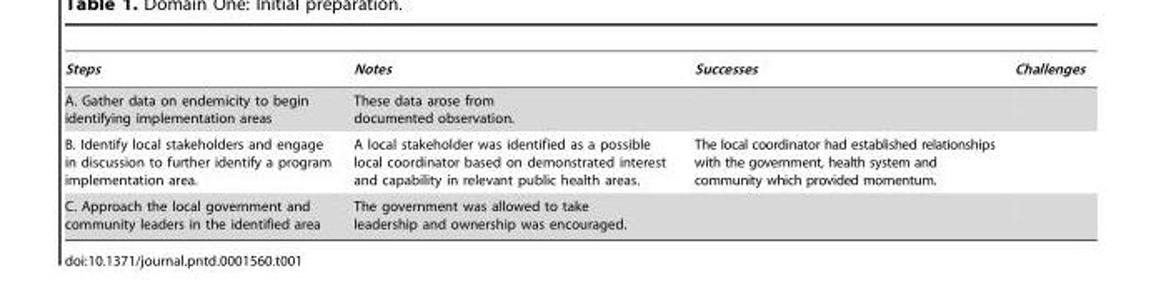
<table><thead><tr><td>Steps</td><td>Notes</td><td>Successes</td><td>Challenges</td></tr></thead><tbody><tr><td>A. Gather data on endemicity to begin identifying implementation areas</td><td>These data arose from documented observation.</td><td></td><td></td></tr><tr><td>B. Identify local stakeholders and engage in discussion to further identify a program implementation area.</td><td>A local stakeholder was identified as a possible local coordinator based on demonstrated interest and capability in relevant public health areas.</td><td>The local coordinator had established relationships with the government, health system and community which provided momentum.</td><td></td></tr><tr><td>C. Approach the local government and community leaders in the identified area</td><td>The government was allowed to take leadership and ownership was encouraged.</td><td></td><td></td></tr></tbody></table>